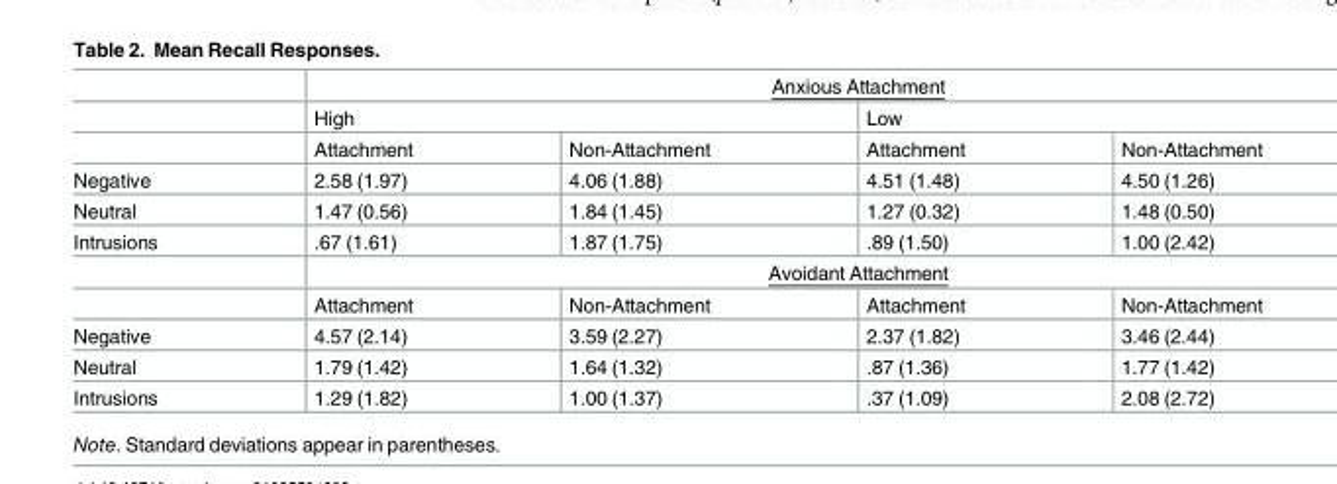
<table><thead><tr><td rowspan="3"></td><td colspan="4">Anxious Attachment</td></tr><tr><td colspan="2">High</td><td colspan="2">Low</td></tr><tr><td>Attachment</td><td>Non-Attachment</td><td>Attachment</td><td>Non-Attachment</td></tr></thead><tbody><tr><td>Negative</td><td>2.58 (1.97)</td><td>4.06 (1.88)</td><td>4.51 (1.48)</td><td>4.50 (1.26)</td></tr><tr><td>Neutral</td><td>1.47 (0.56)</td><td>1.84 (1.45)</td><td>1.27 (0.32)</td><td>1.48 (0.50)</td></tr><tr><td rowspan="3">Intrusions</td><td>.67 (1.61)</td><td>1.87 (1.75)</td><td>.89 (1.50)</td><td>1.00 (2.42)</td></tr><tr><td colspan="4">Avoidant Attachment</td></tr><tr><td>Attachment</td><td>Non-Attachment</td><td>Attachment</td><td>Non-Attachment</td></tr><tr><td>Negative</td><td>4.57 (2.14)</td><td>3.59 (2.27)</td><td>2.37 (1.82)</td><td>3.46 (2.44)</td></tr><tr><td>Neutral</td><td>1.79 (1.42)</td><td>1.64 (1.32)</td><td>.87 (1.36)</td><td>1.77 (1.42)</td></tr><tr><td>Intrusions</td><td>1.29 (1.82)</td><td>1.00 (1.37)</td><td>.37 (1.09)</td><td>2.08 (2.72)</td></tr></tbody></table>